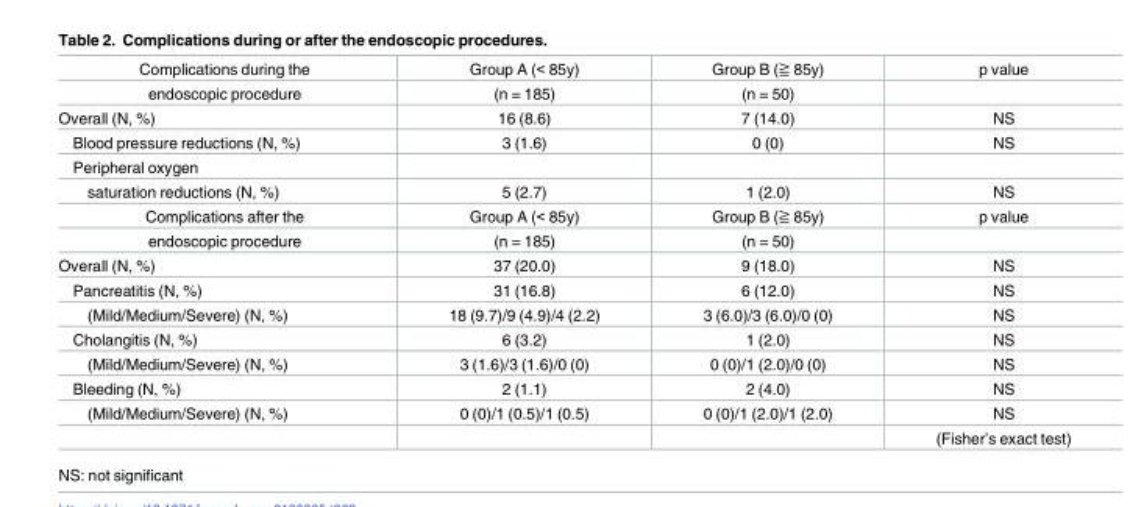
<table><tbody><tr><td>Complications during the</td><td>Group A (&lt; 85y)</td><td>Group B (≧ 85y)</td><td>p value</td></tr><tr><td>endoscopic procedure</td><td>(n = 185)</td><td>(n = 50)</td><td></td></tr><tr><td>Overall (N, %)</td><td>16 (8.6)</td><td>7 (14.0)</td><td>NS</td></tr><tr><td>Blood pressure reductions (N, %)</td><td>3 (1.6)</td><td>0 (0)</td><td>NS</td></tr><tr><td colspan="4">Peripheral oxygen</td></tr><tr><td>saturation reductions (N, %)</td><td>5 (2.7)</td><td>1 (2.0)</td><td>NS</td></tr><tr><td>Complications after the</td><td>Group A (&lt; 85y)</td><td>Group B (≧ 85y)</td><td>p value</td></tr><tr><td>endoscopic procedure</td><td>(n = 185)</td><td>(n = 50)</td><td></td></tr><tr><td>Overall (N, %)</td><td>37 (20.0)</td><td>9 (18.0)</td><td>NS</td></tr><tr><td>Pancreatitis (N, %)</td><td>31 (16.8)</td><td>6 (12.0)</td><td>NS</td></tr><tr><td>(Mild/Medium/Severe) (N, %)</td><td>18 (9.7)/9 (4.9)/4 (2.2)</td><td>3 (6.0)/3 (6.0)/0 (0)</td><td>NS</td></tr><tr><td>Cholangitis (N, %)</td><td>6 (3.2)</td><td>1 (2.0)</td><td>NS</td></tr><tr><td>(Mild/Medium/Severe) (N, %)</td><td>3 (1.6)/3 (1.6)/0 (0)</td><td>0 (0)/1 (2.0)/0 (0)</td><td>NS</td></tr><tr><td>Bleeding (N, %)</td><td>2 (1.1)</td><td>2 (4.0)</td><td>NS</td></tr><tr><td rowspan="2">(Mild/Medium/Severe) (N, %)</td><td>0 (0)/1 (0.5)/1 (0.5)</td><td>0 (0)/1 (2.0)/1 (2.0)</td><td>NS</td></tr><tr><td></td><td></td><td>(Fisher’s exact test)</td></tr></tbody></table>